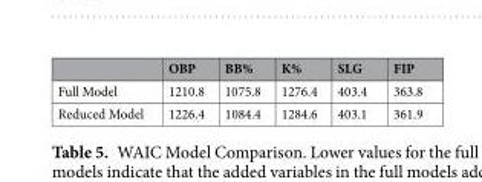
<table><thead><tr><td></td><td>OBP</td><td>BB%</td><td>K%</td><td>SLG</td><td>FIP</td></tr></thead><tbody><tr><td>Full Model</td><td>1210.8</td><td>1075.8</td><td>1276.4</td><td>403.4</td><td>363.8</td></tr><tr><td>Reduced Model</td><td>1226.4</td><td>1084.4</td><td>1284.6</td><td>403.1</td><td>361.9</td></tr></tbody></table>